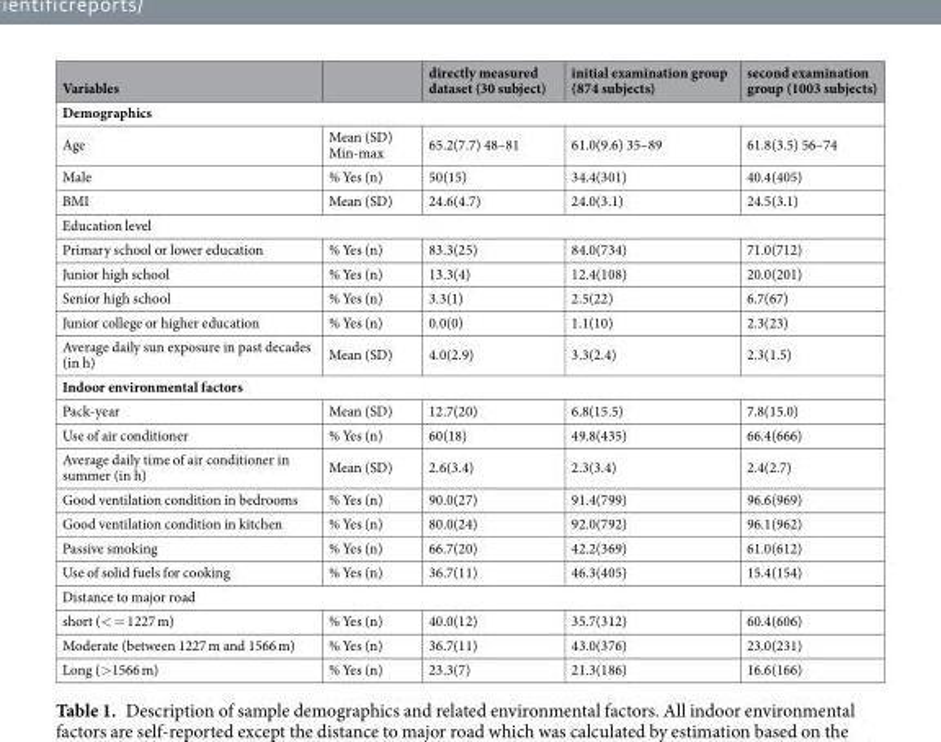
<table><thead><tr><td>Variables</td><td></td><td>directly measured dataset (30 subject)</td><td>initial examination group (874 subjects)</td><td>second examination group (1003 subjects)</td></tr></thead><tbody><tr><td colspan="5">Demographics</td></tr><tr><td>Age</td><td>Mean (SD) Min-max</td><td>65.2(7.7) 48–81</td><td>61.0(9.6) 35–89</td><td>61.8(3.5) 56–74</td></tr><tr><td>Male</td><td>% Yes (n)</td><td>50(15)</td><td>34.4(301)</td><td>40.4(405)</td></tr><tr><td>BMI</td><td>Mean (SD)</td><td>24.6(4.7)</td><td>24.0(3.1)</td><td>24.5(3.1)</td></tr><tr><td colspan="5">Education level</td></tr><tr><td>Primary school or lower education</td><td>% Yes (n)</td><td>83.3(25)</td><td>84.0(734)</td><td>71.0(712)</td></tr><tr><td>Junior high school</td><td>% Yes (n)</td><td>13.3(4)</td><td>12.4(108)</td><td>20.0(201)</td></tr><tr><td>Senior high school</td><td>% Yes (n)</td><td>3.3(1)</td><td>2.5(22)</td><td>6.7(67)</td></tr><tr><td>Junior college or higher education</td><td>% Yes (n)</td><td>0.0(0)</td><td>1.1(10)</td><td>2.3(23)</td></tr><tr><td>Average daily sun exposure in past decades (in h)</td><td>Mean (SD)</td><td>4.0(2.9)</td><td>3.3(2.4)</td><td>2.3(1.5)</td></tr><tr><td colspan="5">Indoor environmental factors</td></tr><tr><td>Pack-year</td><td>Mean (SD)</td><td>12.7(20)</td><td>6.8(15.5)</td><td>7.8(15.0)</td></tr><tr><td>Use of air conditioner</td><td>% Yes (n)</td><td>60(18)</td><td>49.8(435)</td><td>66.4(666)</td></tr><tr><td>Average daily time of air conditioner in summer (in h)</td><td>Mean (SD)</td><td>2.6(3.4)</td><td>2.3(3.4)</td><td>2.4(2.7)</td></tr><tr><td>Good ventilation condition in bedrooms</td><td>% Yes (n)</td><td>90.0(27)</td><td>91.4(799)</td><td>96.6(969)</td></tr><tr><td>Good ventilation condition in kitchen</td><td>% Yes (n)</td><td>80.0(24)</td><td>92.0(792)</td><td>96.1(962)</td></tr><tr><td>Passive smoking</td><td>% Yes (n)</td><td>66.7(20)</td><td>42.2(369)</td><td>61.0(612)</td></tr><tr><td>Use of solid fuels for cooking</td><td>% Yes (n)</td><td>36.7(11)</td><td>46.3(405)</td><td>15.4(154)</td></tr><tr><td colspan="5">Distance to major road</td></tr><tr><td>short (&lt; = 1227 m)</td><td>% Yes (n)</td><td>40.0(12)</td><td>35.7(312)</td><td>60.4(606)</td></tr><tr><td>Moderate (between 1227 m and 1566 m)</td><td>% Yes (n)</td><td>36.7(11)</td><td>43.0(376)</td><td>23.0(231)</td></tr><tr><td>Long (&gt;1566 m)</td><td>% Yes (n)</td><td>23.3(7)</td><td>21.3(186)</td><td>16.6(166)</td></tr></tbody></table>